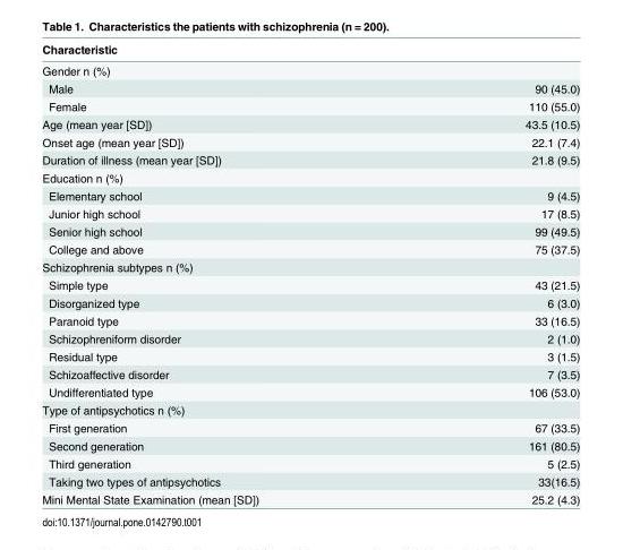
<table><thead><tr><td>Characteristic</td><td></td></tr></thead><tbody><tr><td colspan="2">Gender n (%)</td></tr><tr><td>Male</td><td>90 (45.0)</td></tr><tr><td>Female</td><td>110 (55.0)</td></tr><tr><td>Age (mean year [SD])</td><td>43.5 (10.5)</td></tr><tr><td>Onset age (mean year [SD])</td><td>22.1 (7.4)</td></tr><tr><td>Duration of illness (mean year [SD])</td><td>21.8 (9.5)</td></tr><tr><td colspan="2">Education n (%)</td></tr><tr><td>Elementary school</td><td>9 (4.5)</td></tr><tr><td>Junior high school</td><td>17 (8.5)</td></tr><tr><td>Senior high school</td><td>99 (49.5)</td></tr><tr><td>College and above</td><td>75 (37.5)</td></tr><tr><td colspan="2">Schizophrenia subtypes n (%)</td></tr><tr><td>Simple type</td><td>43 (21.5)</td></tr><tr><td>Disorganized type</td><td>6 (3.0)</td></tr><tr><td>Paranoid type</td><td>33 (16.5)</td></tr><tr><td>Schizophreniform disorder</td><td>2 (1.0)</td></tr><tr><td>Residual type</td><td>3 (1.5)</td></tr><tr><td>Schizoaffective disorder</td><td>7 (3.5)</td></tr><tr><td>Undifferentiated type</td><td>106 (53.0)</td></tr><tr><td colspan="2">Type of antipsychotics n (%)</td></tr><tr><td>First generation</td><td>67 (33.5)</td></tr><tr><td>Second generation</td><td>161 (80.5)</td></tr><tr><td>Third generation</td><td>5 (2.5)</td></tr><tr><td>Taking two types of antipsychotics</td><td>33(16.5)</td></tr><tr><td>Mini Mental State Examination (mean [SD])</td><td>25.2 (4.3)</td></tr></tbody></table>